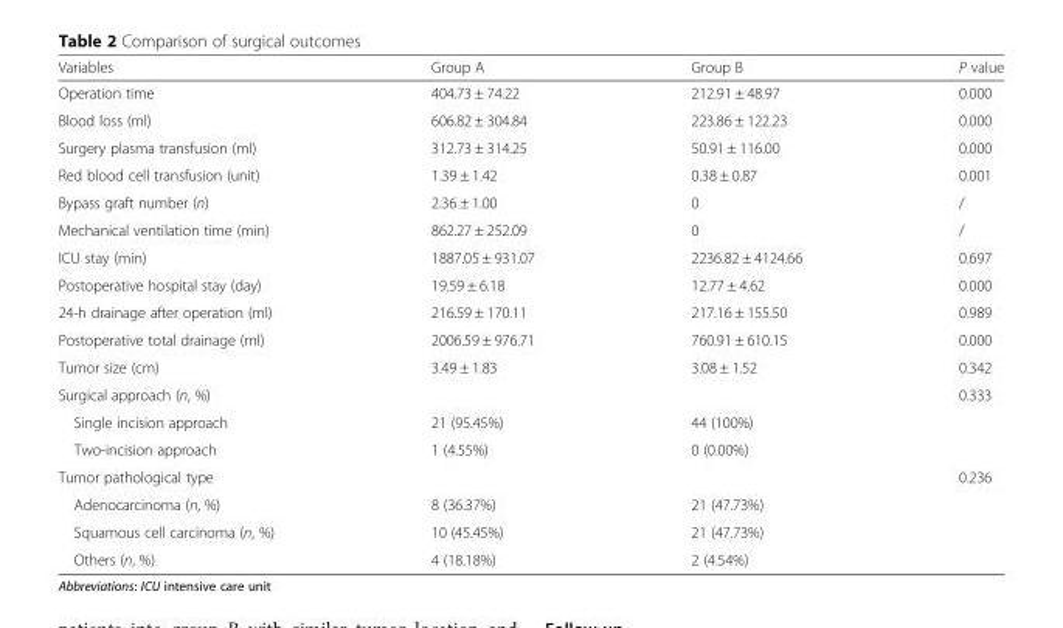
<table><thead><tr><td>Variables</td><td>Group A</td><td>Group B</td><td>P value</td></tr></thead><tbody><tr><td>Operation time</td><td>404.73 ± 74.22</td><td>212.91 ± 48.97</td><td>0.000</td></tr><tr><td>Blood loss (ml)</td><td>606.82 ± 304.84</td><td>223.86 ± 122.23</td><td>0.000</td></tr><tr><td>Surgery plasma transfusion (ml)</td><td>312.73 ± 314.25</td><td>50.91 ± 116.00</td><td>0.000</td></tr><tr><td>Red blood cell transfusion (unit)</td><td>1.39 ± 1.42</td><td>0.38 ± 0.87</td><td>0.001</td></tr><tr><td>Bypass graft number (n)</td><td>2.36 ± 1.00</td><td>0</td><td>/</td></tr><tr><td>Mechanical ventilation time (min)</td><td>862.27 ± 252.09</td><td>0</td><td>/</td></tr><tr><td>ICU stay (min)</td><td>1887.05 ± 931.07</td><td>2236.82 ± 4124.66</td><td>0.697</td></tr><tr><td>Postoperative hospital stay (day)</td><td>19.59 ± 6.18</td><td>12.77 ± 4.62</td><td>0.000</td></tr><tr><td>24-h drainage after operation (ml)</td><td>216.59 ± 170.11</td><td>217.16 ± 155.50</td><td>0.989</td></tr><tr><td>Postoperative total drainage (ml)</td><td>2006.59 ± 976.71</td><td>760.91 ± 610.15</td><td>0.000</td></tr><tr><td>Tumor size (cm)</td><td>3.49 ± 1.83</td><td>3.08 ± 1.52</td><td>0.342</td></tr><tr><td colspan="3">Surgical approach (n, %)</td><td>0.333</td></tr><tr><td>Single incision approach</td><td>21 (95.45%)</td><td>44 (100%)</td><td></td></tr><tr><td>Two-incision approach</td><td>1 (4.55%)</td><td>0 (0.00%)</td><td></td></tr><tr><td colspan="3">Tumor pathological type</td><td>0.236</td></tr><tr><td>Adenocarcinoma (n, %)</td><td>8 (36.37%)</td><td>21 (47.73%)</td><td></td></tr><tr><td>Squamous cell carcinoma (n, %)</td><td>10 (45.45%)</td><td>21 (47.73%)</td><td></td></tr><tr><td>Others (n, %)</td><td>4 (18.18%)</td><td>2 (4.54%)</td><td></td></tr></tbody></table>